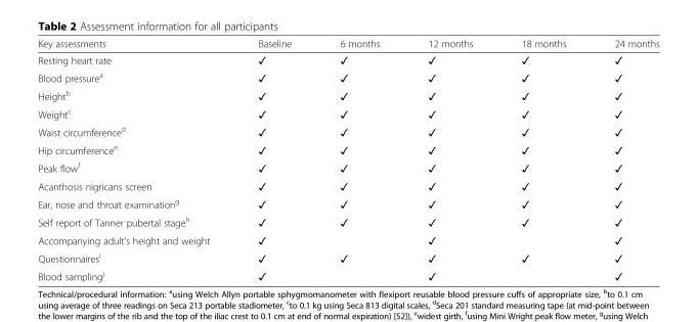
<table><thead><tr><td>Key assessments</td><td>Baseline</td><td>6 months</td><td>12 months</td><td>18 months</td><td>24 months</td></tr></thead><tbody><tr><td>Resting heart rate</td><td>✓</td><td>✓</td><td>✓</td><td>✓</td><td>✓</td></tr><tr><td>Blood pressure<sup>a</sup></td><td>✓</td><td>✓</td><td>✓</td><td>✓</td><td>✓</td></tr><tr><td>Height<sup>b</sup></td><td>✓</td><td>✓</td><td>✓</td><td>✓</td><td>✓</td></tr><tr><td>Weight<sup>c</sup></td><td>✓</td><td>✓</td><td>✓</td><td>✓</td><td>✓</td></tr><tr><td>Waist circumference<sup>d</sup></td><td>✓</td><td>✓</td><td>✓</td><td>✓</td><td>✓</td></tr><tr><td>Hip circumference<sup>e</sup></td><td>✓</td><td>✓</td><td>✓</td><td>✓</td><td>✓</td></tr><tr><td>Peak flow<sup>f</sup></td><td>✓</td><td>✓</td><td>✓</td><td>✓</td><td>✓</td></tr><tr><td>Acanthosis nigricans screen</td><td>✓</td><td>✓</td><td>✓</td><td>✓</td><td>✓</td></tr><tr><td>Ear, nose and throat examination<sup>g</sup></td><td>✓</td><td>✓</td><td>✓</td><td>✓</td><td>✓</td></tr><tr><td>Self report of Tanner pubertal stage<sup>h</sup></td><td>✓</td><td>✓</td><td>✓</td><td>✓</td><td>✓</td></tr><tr><td>Accompanying adult’s height and weight</td><td>✓</td><td></td><td>✓</td><td></td><td>✓</td></tr><tr><td>Questionnaires<sup>i</sup></td><td>✓</td><td>✓</td><td>✓</td><td>✓</td><td>✓</td></tr><tr><td>Blood sampling<sup>j</sup></td><td>✓</td><td></td><td>✓</td><td></td><td>✓</td></tr></tbody></table>